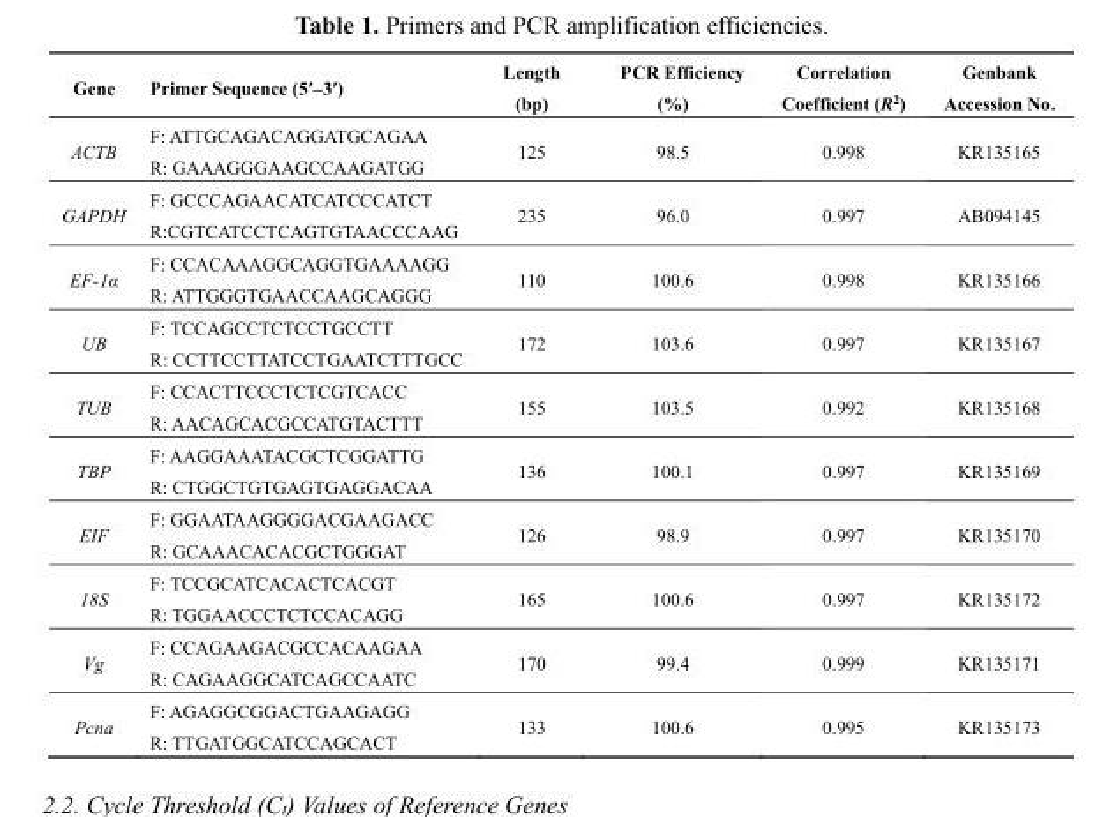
<table><thead><tr><td>Gene</td><td>Primer Sequence (5ʹ–3ʹ)</td><td>Length (bp)</td><td>PCR Efficiency (%)</td><td>Correlation Coefficient (R<sup>2</sup>)</td><td>Genbank Accession No.</td></tr></thead><tbody><tr><td>ACTB</td><td>F: ATTGCAGACAGGATGCAGAA R: GAAAGGGAAGCCAAGATGG</td><td>125</td><td>98.5</td><td>0.998</td><td>KR135165</td></tr><tr><td>GAPDH</td><td>F: GCCCAGAACATCATCCCATCT R:CGTCATCCTCAGTGTAACCCAAG</td><td>235</td><td>96.0</td><td>0.997</td><td>AB094145</td></tr><tr><td>EF-1α</td><td>F: CCACAAAGGCAGGTGAAAAGG R: ATTGGGTGAACCAAGCAGGG</td><td>110</td><td>100.6</td><td>0.998</td><td>KR135166</td></tr><tr><td>UB</td><td>F: TCCAGCCTCTCCTGCCTT R: CCTTCCTTATCCTGAATCTTTGCC</td><td>172</td><td>103.6</td><td>0.997</td><td>KR135167</td></tr><tr><td>TUB</td><td>F: CCACTTCCCTCTCGTCACC R: AACAGCACGCCATGTACTTT</td><td>155</td><td>103.5</td><td>0.992</td><td>KR135168</td></tr><tr><td>TBP</td><td>F: AAGGAAATACGCTCGGATTG R: CTGGCTGTGAGTGAGGACAA</td><td>136</td><td>100.1</td><td>0.997</td><td>KR135169</td></tr><tr><td>EIF</td><td>F: GGAATAAGGGGACGAAGACC R: GCAAACACACGCTGGGAT</td><td>126</td><td>98.9</td><td>0.997</td><td>KR135170</td></tr><tr><td>18S</td><td>F: TCCGCATCACACTCACGT R: TGGAACCCTCTCCACAGG</td><td>165</td><td>100.6</td><td>0.997</td><td>KR135172</td></tr><tr><td>Vg</td><td>F: CCAGAAGACGCCACAAGAA R: CAGAAGGCATCAGCCAATC</td><td>170</td><td>99.4</td><td>0.999</td><td>KR135171</td></tr><tr><td>Pcna</td><td>F: AGAGGCGGACTGAAGAGG R: TTGATGGCATCCAGCACT</td><td>133</td><td>100.6</td><td>0.995</td><td>KR135173</td></tr></tbody></table>